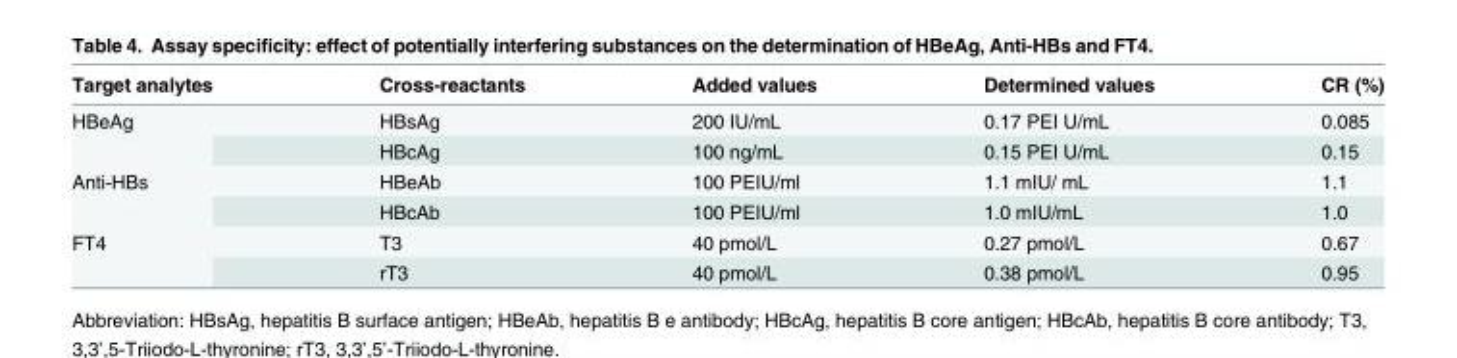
<table><thead><tr><td>Target analytes</td><td>Cross-reactants</td><td>Added values</td><td>Determined values</td><td>CR (%)</td></tr></thead><tbody><tr><td rowspan="2">HBeAg</td><td>HBsAg</td><td>200 IU/mL</td><td>0.17 PEI U/mL</td><td>0.085</td></tr><tr><td>HBcAg</td><td>100 ng/mL</td><td>0.15 PEI U/mL</td><td>0.15</td></tr><tr><td rowspan="2">Anti-HBs</td><td>HBeAb</td><td>100 PEIU/ml</td><td>1.1 mIU/ mL</td><td>1.1</td></tr><tr><td>HBcAb</td><td>100 PEIU/ml</td><td>1.0 mIU/mL</td><td>1.0</td></tr><tr><td rowspan="2">FT4</td><td>T3</td><td>40 pmol/L</td><td>0.27 pmol/L</td><td>0.67</td></tr><tr><td>rT3</td><td>40 pmol/L</td><td>0.38 pmol/L</td><td>0.95</td></tr></tbody></table>